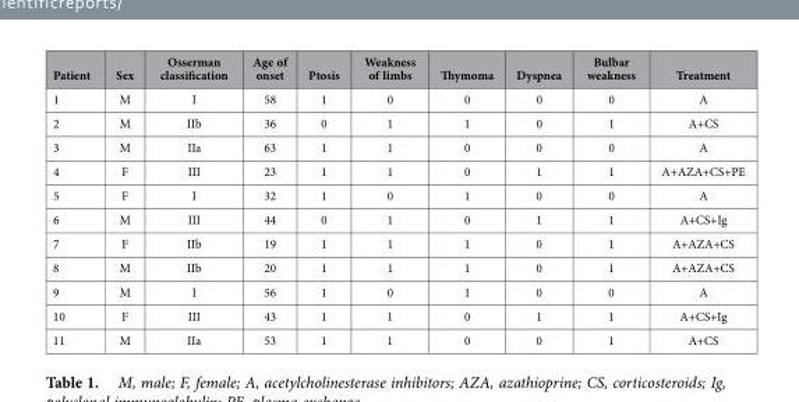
<table><thead><tr><td>Patient</td><td>Sex</td><td>Osserman classification</td><td>Age of onset</td><td>Ptosis</td><td>Weakness of limbs</td><td>Thymoma</td><td>Dyspnea</td><td>Bulbar weakness</td><td>Treatment</td></tr></thead><tbody><tr><td>1</td><td>M</td><td>I</td><td>58</td><td>1</td><td>0</td><td>0</td><td>0</td><td>0</td><td>A</td></tr><tr><td>2</td><td>M</td><td>IIb</td><td>36</td><td>0</td><td>1</td><td>1</td><td>0</td><td>1</td><td>A+CS</td></tr><tr><td>3</td><td>M</td><td>IIa</td><td>63</td><td>1</td><td>1</td><td>0</td><td>0</td><td>0</td><td>A</td></tr><tr><td>4</td><td>F</td><td>III</td><td>23</td><td>1</td><td>1</td><td>0</td><td>1</td><td>1</td><td>A+AZA+CS+PE</td></tr><tr><td>5</td><td>F</td><td>I</td><td>32</td><td>1</td><td>0</td><td>1</td><td>0</td><td>0</td><td>A</td></tr><tr><td>6</td><td>M</td><td>III</td><td>44</td><td>0</td><td>1</td><td>0</td><td>1</td><td>1</td><td>A+CS+Ig</td></tr><tr><td>7</td><td>F</td><td>IIb</td><td>19</td><td>1</td><td>1</td><td>1</td><td>0</td><td>1</td><td>A+AZA+CS</td></tr><tr><td>8</td><td>M</td><td>IIb</td><td>20</td><td>1</td><td>1</td><td>1</td><td>0</td><td>1</td><td>A+AZA+CS</td></tr><tr><td>9</td><td>M</td><td>I</td><td>56</td><td>1</td><td>0</td><td>1</td><td>0</td><td>0</td><td>A</td></tr><tr><td>10</td><td>F</td><td>III</td><td>43</td><td>1</td><td>1</td><td>0</td><td>1</td><td>1</td><td>A+CS+Ig</td></tr><tr><td>11</td><td>M</td><td>IIa</td><td>53</td><td>1</td><td>1</td><td>0</td><td>0</td><td>1</td><td>A+CS</td></tr></tbody></table>